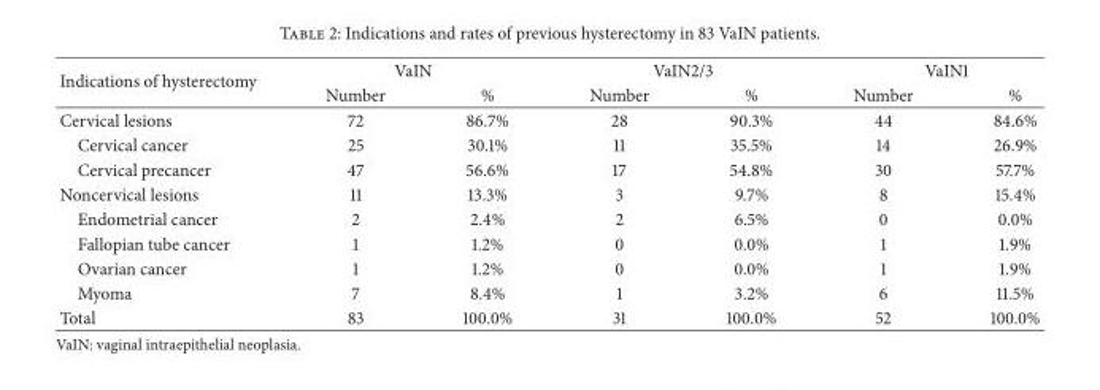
<table><thead><tr><td rowspan="2">Indications of hysterectomy</td><td colspan="2">VaIN</td><td colspan="2">VaIN2/3</td><td colspan="2">VaIN1</td></tr><tr><td>Number</td><td>%</td><td>Number</td><td>%</td><td>Number</td><td>%</td></tr></thead><tbody><tr><td>Cervical lesions</td><td>72</td><td>86.7%</td><td>28</td><td>90.3%</td><td>44</td><td>84.6%</td></tr><tr><td>Cervical cancer</td><td>25</td><td>30.1%</td><td>11</td><td>35.5%</td><td>14</td><td>26.9%</td></tr><tr><td>Cervical precancer</td><td>47</td><td>56.6%</td><td>17</td><td>54.8%</td><td>30</td><td>57.7%</td></tr><tr><td>Noncervical lesions</td><td>11</td><td>13.3%</td><td>3</td><td>9.7%</td><td>8</td><td>15.4%</td></tr><tr><td>Endometrial cancer</td><td>2</td><td>2.4%</td><td>2</td><td>6.5%</td><td>0</td><td>0.0%</td></tr><tr><td>Fallopian tube cancer</td><td>1</td><td>1.2%</td><td>0</td><td>0.0%</td><td>1</td><td>1.9%</td></tr><tr><td>Ovarian cancer</td><td>1</td><td>1.2%</td><td>0</td><td>0.0%</td><td>1</td><td>1.9%</td></tr><tr><td>Myoma</td><td>7</td><td>8.4%</td><td>1</td><td>3.2%</td><td>6</td><td>11.5%</td></tr><tr><td>Total</td><td>83</td><td>100.0%</td><td>31</td><td>100.0%</td><td>52</td><td>100.0%</td></tr></tbody></table>